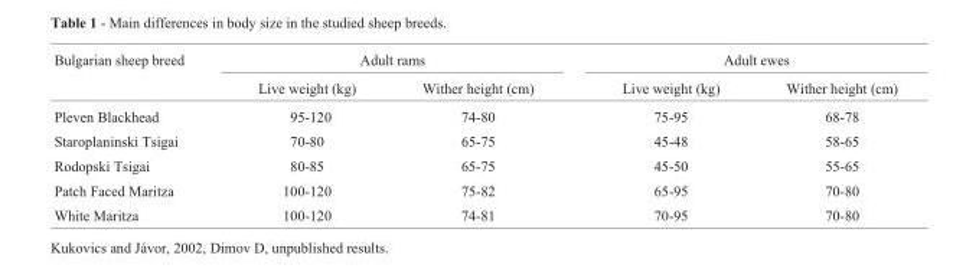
<table><thead><tr><td rowspan="2">Bulgarian sheep breed</td><td colspan="2">Adult rams</td><td colspan="2">Adult ewes</td></tr><tr><td>Live weight (kg)</td><td>Wither height (cm)</td><td>Live weight (kg)</td><td>Wither height (cm)</td></tr></thead><tbody><tr><td>Pleven Blackhead</td><td>95-120</td><td>74-80</td><td>75-95</td><td>68-78</td></tr><tr><td>Staroplaninski Tsigai</td><td>70-80</td><td>65-75</td><td>45-48</td><td>58-65</td></tr><tr><td>Rodopski Tsigai</td><td>80-85</td><td>65-75</td><td>45-50</td><td>55-65</td></tr><tr><td>Patch Faced Maritza</td><td>100-120</td><td>75-82</td><td>65-95</td><td>70-80</td></tr><tr><td>White Maritza</td><td>100-120</td><td>74-81</td><td>70-95</td><td>70-80</td></tr></tbody></table>